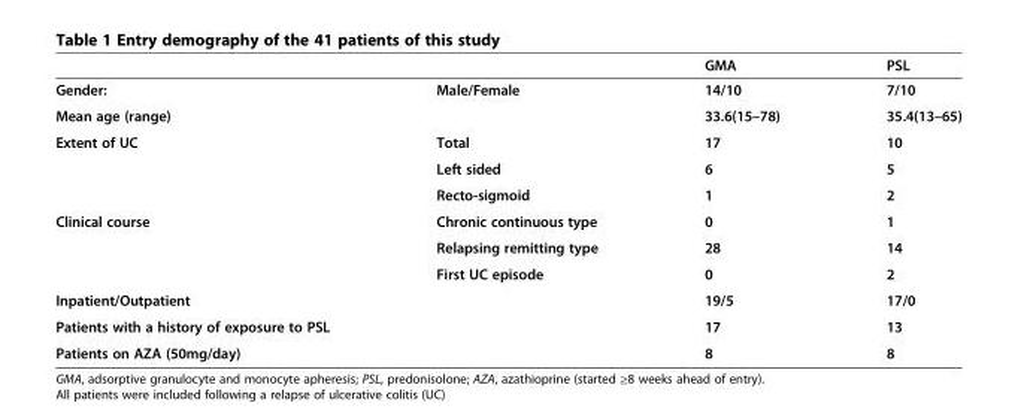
<table><thead><tr><td></td><td></td><td>GMA</td><td>PSL</td></tr></thead><tbody><tr><td>Gender:</td><td>Male/Female</td><td>14/10</td><td>7/10</td></tr><tr><td>Mean age (range)</td><td></td><td>33.6(15–78)</td><td>35.4(13–65)</td></tr><tr><td rowspan="3">Extent of UC</td><td>Total</td><td>17</td><td>10</td></tr><tr><td>Left sided</td><td>6</td><td>5</td></tr><tr><td>Recto-sigmoid</td><td>1</td><td>2</td></tr><tr><td rowspan="3">Clinical course</td><td>Chronic continuous type</td><td>0</td><td>1</td></tr><tr><td>Relapsing remitting type</td><td>28</td><td>14</td></tr><tr><td>First UC episode</td><td>0</td><td>2</td></tr><tr><td>Inpatient/Outpatient</td><td></td><td>19/5</td><td>17/0</td></tr><tr><td>Patients with a history of exposure to PSL</td><td></td><td>17</td><td>13</td></tr><tr><td>Patients on AZA (50mg/day)</td><td></td><td>8</td><td>8</td></tr></tbody></table>